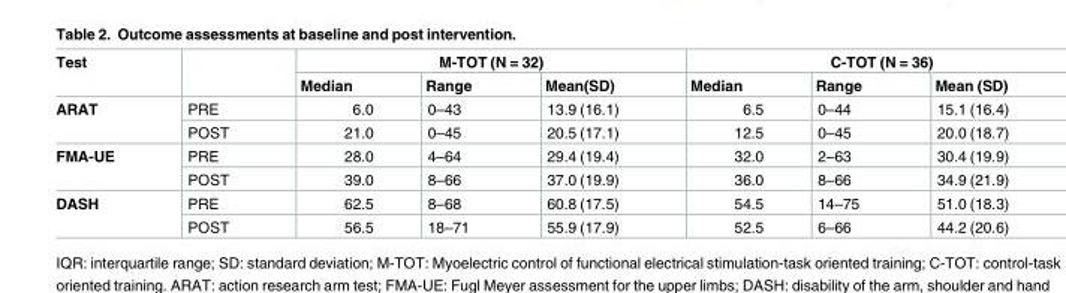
<table><thead><tr><td rowspan="2">Test</td><td rowspan="2"></td><td colspan="3">M-TOT (N = 32)</td><td colspan="3">C-TOT (N = 36)</td></tr><tr><td>Median</td><td>Range</td><td>Mean(SD)</td><td>Median</td><td>Range</td><td>Mean (SD)</td></tr></thead><tbody><tr><td rowspan="2">ARAT</td><td>PRE</td><td>6.0</td><td>0–43</td><td>13.9 (16.1)</td><td>6.5</td><td>0–44</td><td>15.1 (16.4)</td></tr><tr><td>POST</td><td>21.0</td><td>0–45</td><td>20.5 (17.1)</td><td>12.5</td><td>0–45</td><td>20.0 (18.7)</td></tr><tr><td rowspan="2">FMA-UE</td><td>PRE</td><td>28.0</td><td>4–64</td><td>29.4 (19.4)</td><td>32.0</td><td>2–63</td><td>30.4 (19.9)</td></tr><tr><td>POST</td><td>39.0</td><td>8–66</td><td>37.0 (19.9)</td><td>36.0</td><td>8–66</td><td>34.9 (21.9)</td></tr><tr><td rowspan="2">DASH</td><td>PRE</td><td>62.5</td><td>8–68</td><td>60.8 (17.5)</td><td>54.5</td><td>14–75</td><td>51.0 (18.3)</td></tr><tr><td>POST</td><td>56.5</td><td>18–71</td><td>55.9 (17.9)</td><td>52.5</td><td>6–66</td><td>44.2 (20.6)</td></tr></tbody></table>